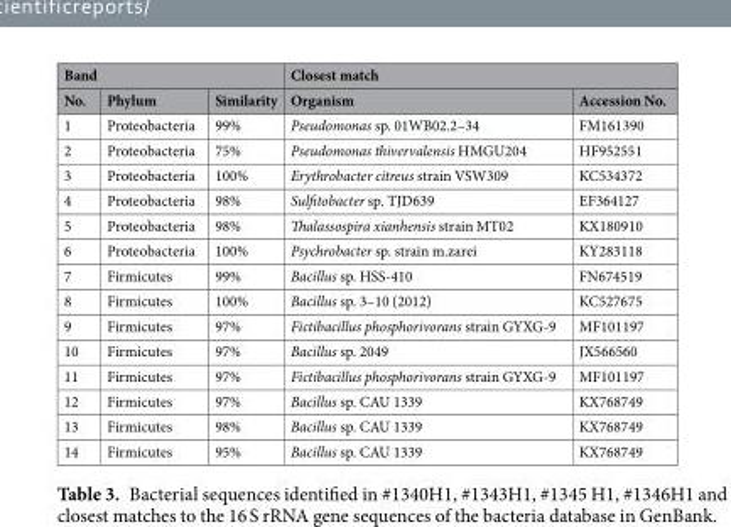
<table><thead><tr><td colspan="3">Band</td><td colspan="2">Closest match</td></tr><tr><td>No.</td><td>Phylum</td><td>Similarity</td><td>Organism</td><td>Accession No.</td></tr></thead><tbody><tr><td>1</td><td>Proteobacteria</td><td>99%</td><td>Pseudomonas sp. 01WB02.2–34</td><td>FM161390</td></tr><tr><td>2</td><td>Proteobacteria</td><td>75%</td><td>Pseudomonas thivervalensis HMGU204</td><td>HF952551</td></tr><tr><td>3</td><td>Proteobacteria</td><td>100%</td><td>Erythrobacter citreus strain VSW309</td><td>KC534372</td></tr><tr><td>4</td><td>Proteobacteria</td><td>98%</td><td>Sulfitobacter sp. TJD639</td><td>EF364127</td></tr><tr><td>5</td><td>Proteobacteria</td><td>98%</td><td>Thalassospira xianhensis strain MT02</td><td>KX180910</td></tr><tr><td>6</td><td>Proteobacteria</td><td>100%</td><td>Psychrobacter sp. strain m.zarei</td><td>KY283118</td></tr><tr><td>7</td><td>Firmicutes</td><td>99%</td><td>Bacillus sp. HSS-410</td><td>FN674519</td></tr><tr><td>8</td><td>Firmicutes</td><td>100%</td><td>Bacillus sp. 3–10 (2012)</td><td>KC527675</td></tr><tr><td>9</td><td>Firmicutes</td><td>97%</td><td>Fictibacillus phosphorivorans strain GYXG-9</td><td>MF101197</td></tr><tr><td>10</td><td>Firmicutes</td><td>97%</td><td>Bacillus sp. 2049</td><td>JX566560</td></tr><tr><td>11</td><td>Firmicutes</td><td>97%</td><td>Fictibacillus phosphorivorans strain GYXG-9</td><td>MF101197</td></tr><tr><td>12</td><td>Firmicutes</td><td>97%</td><td>Bacillus sp. CAU 1339</td><td>KX768749</td></tr><tr><td>13</td><td>Firmicutes</td><td>98%</td><td>Bacillus sp. CAU 1339</td><td>KX768749</td></tr><tr><td>14</td><td>Firmicutes</td><td>95%</td><td>Bacillus sp. CAU 1339</td><td>KX768749</td></tr></tbody></table>